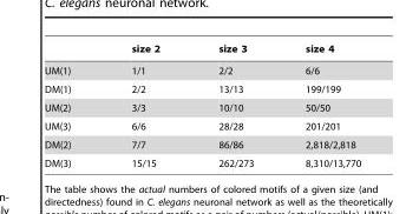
<table><thead><tr><td></td><td>size 2</td><td>size 3</td><td>size 4</td></tr></thead><tbody><tr><td>UM(1)</td><td>1/1</td><td>2/2</td><td>6/6</td></tr><tr><td>DM(1)</td><td>2/2</td><td>13/13</td><td>199/199</td></tr><tr><td>UM(2)</td><td>3/3</td><td>10/10</td><td>50/50</td></tr><tr><td>UM(3)</td><td>6/6</td><td>28/28</td><td>201/201</td></tr><tr><td>DM(2)</td><td>7/7</td><td>86/86</td><td>2,818/2,818</td></tr><tr><td>DM(3)</td><td>15/15</td><td>262/273</td><td>8,310/13,770</td></tr></tbody></table>